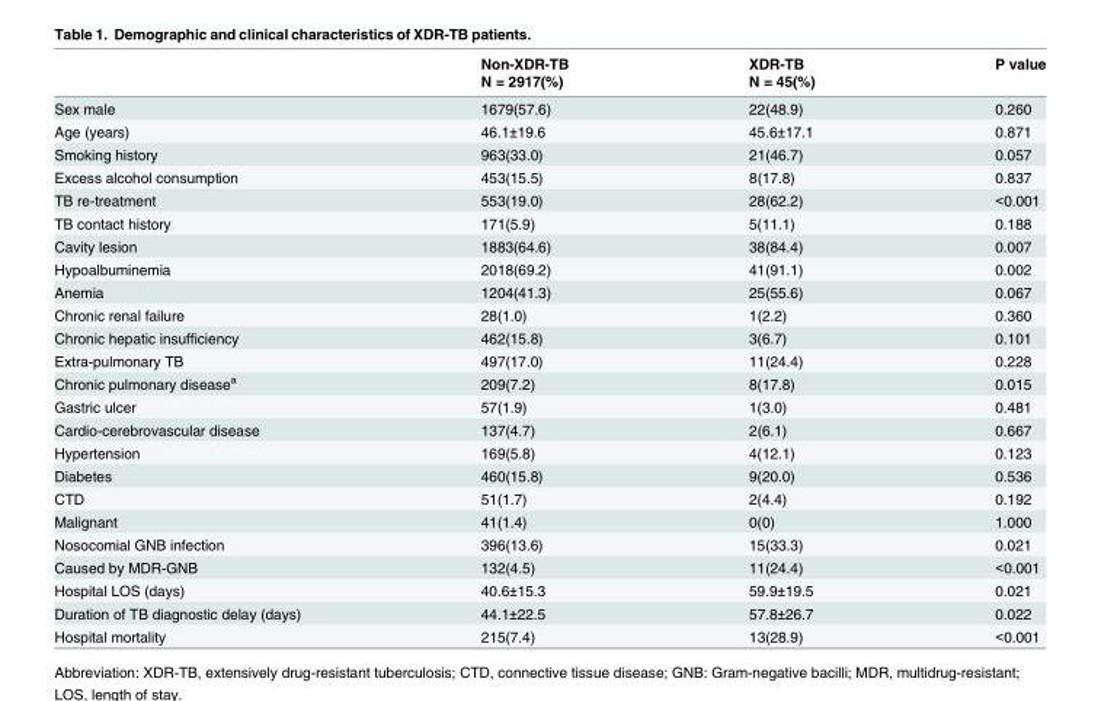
<table><thead><tr><td rowspan="2"></td><td rowspan="2">Non-XDR-TB N = 2917(%)</td><td rowspan="2">XDR-TB N = 45(%)</td><td rowspan="2">P value</td></tr><tr></tr></thead><tbody><tr><td>Sex male</td><td>1679(57.6)</td><td>22(48.9)</td><td>0.260</td></tr><tr><td>Age (years)</td><td>46.1±19.6</td><td>45.6±17.1</td><td>0.871</td></tr><tr><td>Smoking history</td><td>963(33.0)</td><td>21(46.7)</td><td>0.057</td></tr><tr><td>Excess alcohol consumption</td><td>453(15.5)</td><td>8(17.8)</td><td>0.837</td></tr><tr><td>TB re-treatment</td><td>553(19.0)</td><td>28(62.2)</td><td>&lt;0.001</td></tr><tr><td>TB contact history</td><td>171(5.9)</td><td>5(11.1)</td><td>0.188</td></tr><tr><td>Cavity lesion</td><td>1883(64.6)</td><td>38(84.4)</td><td>0.007</td></tr><tr><td>Hypoalbuminemia</td><td>2018(69.2)</td><td>41(91.1)</td><td>0.002</td></tr><tr><td>Anemia</td><td>1204(41.3)</td><td>25(55.6)</td><td>0.067</td></tr><tr><td>Chronic renal failure</td><td>28(1.0)</td><td>1(2.2)</td><td>0.360</td></tr><tr><td>Chronic hepatic insufficiency</td><td>462(15.8)</td><td>3(6.7)</td><td>0.101</td></tr><tr><td>Extra-pulmonary TB</td><td>497(17.0)</td><td>11(24.4)</td><td>0.228</td></tr><tr><td>Chronic pulmonary disease<sup>a</sup></td><td>209(7.2)</td><td>8(17.8)</td><td>0.015</td></tr><tr><td>Gastric ulcer</td><td>57(1.9)</td><td>1(3.0)</td><td>0.481</td></tr><tr><td>Cardio-cerebrovascular disease</td><td>137(4.7)</td><td>2(6.1)</td><td>0.667</td></tr><tr><td>Hypertension</td><td>169(5.8)</td><td>4(12.1)</td><td>0.123</td></tr><tr><td>Diabetes</td><td>460(15.8)</td><td>9(20.0)</td><td>0.536</td></tr><tr><td>CTD</td><td>51(1.7)</td><td>2(4.4)</td><td>0.192</td></tr><tr><td>Malignant</td><td>41(1.4)</td><td>0(0)</td><td>1.000</td></tr><tr><td>Nosocomial GNB infection</td><td>396(13.6)</td><td>15(33.3)</td><td>0.021</td></tr><tr><td>Caused by MDR-GNB</td><td>132(4.5)</td><td>11(24.4)</td><td>&lt;0.001</td></tr><tr><td>Hospital LOS (days)</td><td>40.6±15.3</td><td>59.9±19.5</td><td>0.021</td></tr><tr><td>Duration of TB diagnostic delay (days)</td><td>44.1±22.5</td><td>57.8±26.7</td><td>0.022</td></tr><tr><td>Hospital mortality</td><td>215(7.4)</td><td>13(28.9)</td><td>&lt;0.001</td></tr></tbody></table>